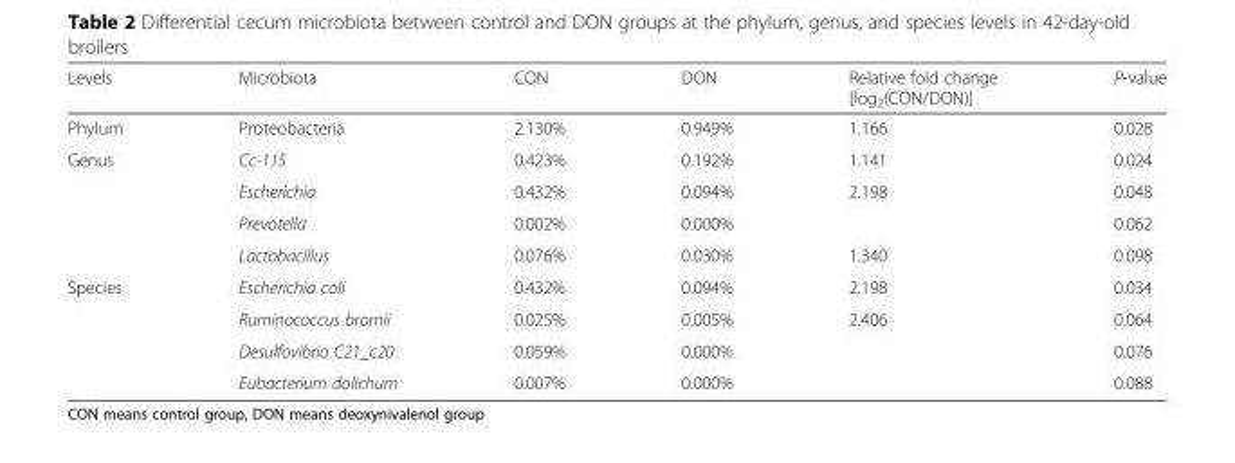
<table><thead><tr><td>Levels</td><td>Microbiota</td><td>CON</td><td>DON</td><td>Relative fold change [log<sub>2</sub>(CON/DON)]</td><td>P-value</td></tr></thead><tbody><tr><td>Phylum</td><td>Proteobacteria</td><td>2.130%</td><td>0.949%</td><td>1.166</td><td>0.028</td></tr><tr><td rowspan="4">Genus</td><td>Cc-115</td><td>0.423%</td><td>0.192%</td><td>1.141</td><td>0.024</td></tr><tr><td>Escherichia</td><td>0.432%</td><td>0.094%</td><td>2.198</td><td>0.048</td></tr><tr><td>Prevotella</td><td>0.002%</td><td>0.000%</td><td></td><td>0.062</td></tr><tr><td>Lactobacillus</td><td>0.076%</td><td>0.030%</td><td>1.340</td><td>0.098</td></tr><tr><td rowspan="4">Species</td><td>Escherichia coli</td><td>0.432%</td><td>0.094%</td><td>2.198</td><td>0.034</td></tr><tr><td>Ruminococcus bromii</td><td>0.025%</td><td>0.005%</td><td>2.406</td><td>0.064</td></tr><tr><td>Desulfovibrio C21_c20</td><td>0.059%</td><td>0.000%</td><td></td><td>0.076</td></tr><tr><td>Eubacterium dolichum</td><td>0.007%</td><td>0.000%</td><td></td><td>0.088</td></tr></tbody></table>